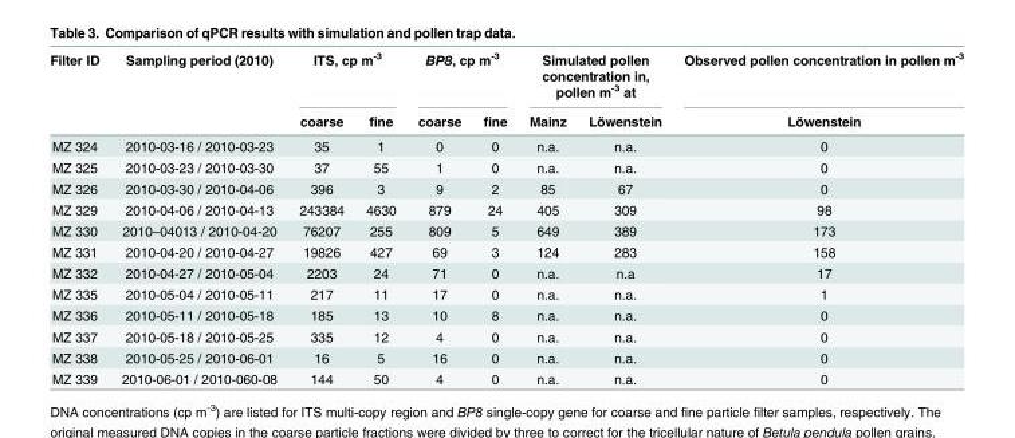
<table><thead><tr><td rowspan="2">Filter ID</td><td rowspan="2">Sampling period (2010)</td><td colspan="2">ITS, cp m<sup>-3</sup></td><td colspan="2">BP8, cp m<sup>-3</sup></td><td colspan="2">Simulated pollen concentration in, pollen m<sup>-3</sup> at</td><td rowspan="2">Observed pollen concentration in pollen m<sup>-3</sup> Löwenstein</td></tr><tr><td>coarse</td><td>fine</td><td>coarse</td><td>fine</td><td>Mainz</td><td>Löwenstein</td></tr></thead><tbody><tr><td>MZ 324</td><td>2010-03-16 / 2010-03-23</td><td>35</td><td>1</td><td>0</td><td>0</td><td>n.a.</td><td>n.a.</td><td>0</td></tr><tr><td>MZ 325</td><td>2010-03-23 / 2010-03-30</td><td>37</td><td>55</td><td>1</td><td>0</td><td>n.a.</td><td>n.a.</td><td>0</td></tr><tr><td>MZ 326</td><td>2010-03-30 / 2010-04-06</td><td>396</td><td>3</td><td>9</td><td>2</td><td>85</td><td>67</td><td>0</td></tr><tr><td>MZ 329</td><td>2010-04-06 / 2010-04-13</td><td>243384</td><td>4630</td><td>879</td><td>24</td><td>405</td><td>309</td><td>98</td></tr><tr><td>MZ 330</td><td>2010–04013 / 2010-04-20</td><td>76207</td><td>255</td><td>809</td><td>5</td><td>649</td><td>389</td><td>173</td></tr><tr><td>MZ 331</td><td>2010-04-20 / 2010-04-27</td><td>19826</td><td>427</td><td>69</td><td>3</td><td>124</td><td>283</td><td>158</td></tr><tr><td>MZ 332</td><td>2010-04-27 / 2010-05-04</td><td>2203</td><td>24</td><td>71</td><td>0</td><td>n.a.</td><td>n.a</td><td>17</td></tr><tr><td>MZ 335</td><td>2010-05-04 / 2010-05-11</td><td>217</td><td>11</td><td>17</td><td>0</td><td>n.a.</td><td>n.a.</td><td>1</td></tr><tr><td>MZ 336</td><td>2010-05-11 / 2010-05-18</td><td>185</td><td>13</td><td>10</td><td>8</td><td>n.a.</td><td>n.a.</td><td>0</td></tr><tr><td>MZ 337</td><td>2010-05-18 / 2010-05-25</td><td>335</td><td>12</td><td>4</td><td>0</td><td>n.a.</td><td>n.a.</td><td>0</td></tr><tr><td>MZ 338</td><td>2010-05-25 / 2010-06-01</td><td>16</td><td>5</td><td>16</td><td>0</td><td>n.a.</td><td>n.a.</td><td>0</td></tr><tr><td>MZ 339</td><td>2010-06-01 / 2010-060-08</td><td>144</td><td>50</td><td>4</td><td>0</td><td>n.a.</td><td>n.a.</td><td>0</td></tr></tbody></table>